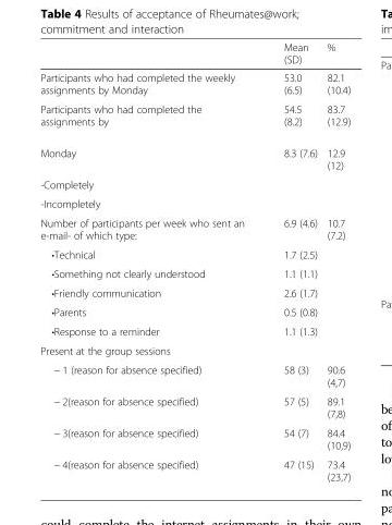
<table><thead><tr><td></td><td>Mean (SD)</td><td>%</td></tr></thead><tbody><tr><td>Participants who had completed the weekly assignments by Monday</td><td>53.0 (6.5)</td><td>82.1 (10.4)</td></tr><tr><td>Participants who had completed the assignments by</td><td>54.5 (8.2)</td><td>83.7 (12.9)</td></tr><tr><td>Monday</td><td>8.3 (7.6)</td><td>12.9 (12)</td></tr><tr><td colspan="3">-Completely</td></tr><tr><td colspan="3">-Incompletely</td></tr><tr><td>Number of participants per week who sent an e-mail- of which type:</td><td>6.9 (4.6)</td><td>10.7 (7.2)</td></tr><tr><td>•Technical</td><td>1.7 (2.5)</td><td></td></tr><tr><td>•Something not clearly understood</td><td>1.1 (1.1)</td><td></td></tr><tr><td>•Friendly communication</td><td>2.6 (1.7)</td><td></td></tr><tr><td>•Parents</td><td>0.5 (0.8)</td><td></td></tr><tr><td>•Response to a reminder</td><td>1.1 (1.3)</td><td></td></tr><tr><td colspan="3">Present at the group sessions</td></tr><tr><td>− 1 (reason for absence specified)</td><td>58 (3)</td><td>90.6 (4,7)</td></tr><tr><td>− 2(reason for absence specified)</td><td>57 (5)</td><td>89.1 (7,8)</td></tr><tr><td>− 3(reason for absence specified)</td><td>54 (7)</td><td>84.4 (10,9)</td></tr><tr><td>− 4(reason for absence specified)</td><td>47 (15)</td><td>73.4 (23,7)</td></tr></tbody></table>